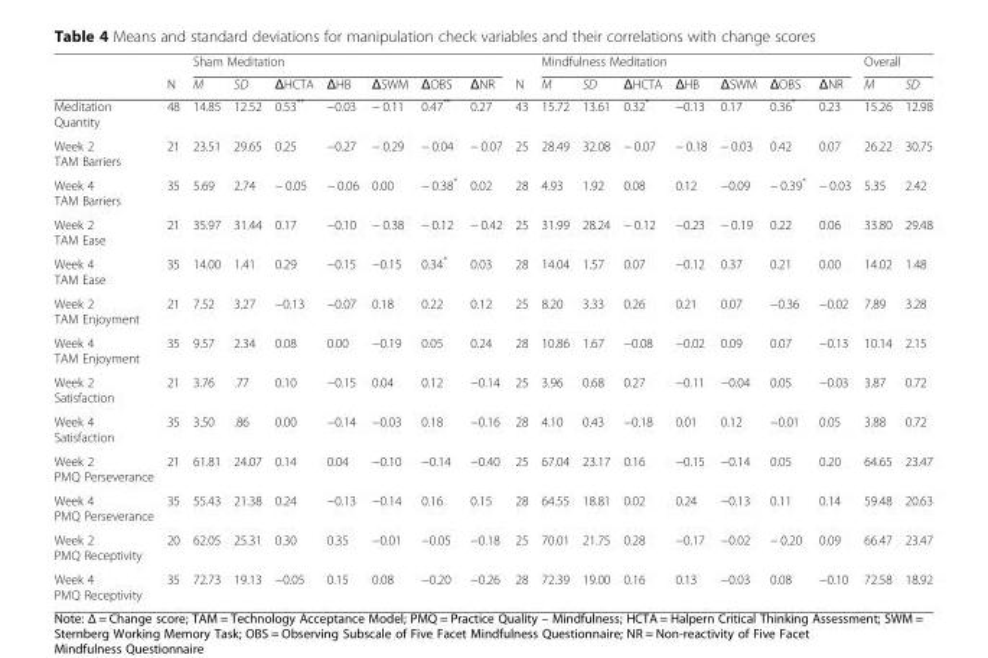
<table><thead><tr><td rowspan="2"></td><td rowspan="2">N</td><td colspan="7">Sham Meditation</td><td rowspan="2">N</td><td colspan="7">Mindfulness Meditation</td><td colspan="2">Overall</td></tr><tr><td>M</td><td>SD</td><td>ΔHCTA</td><td>ΔHB</td><td>ΔSWM</td><td>ΔOBS</td><td>ΔNR</td><td>M</td><td>SD</td><td>ΔHCTA</td><td>ΔHB</td><td>ΔSWM</td><td>ΔOBS</td><td>ΔNR</td><td>M</td><td>SD</td></tr></thead><tbody><tr><td>Meditation Quantity</td><td>48</td><td>14.85</td><td>12.52</td><td>0.53**</td><td>−0.03</td><td>− 0.11</td><td>0.47**</td><td>0.27</td><td>43</td><td>15.72</td><td>13.61</td><td>0.32*</td><td>−0.13</td><td>0.17</td><td>0.36*</td><td>0.23</td><td>15.26</td><td>12.98</td></tr><tr><td>Week 2 TAM Barriers</td><td>21</td><td>23.51</td><td>29.65</td><td>0.25</td><td>−0.27</td><td>− 0.29</td><td>− 0.04</td><td>− 0.07</td><td>25</td><td>28.49</td><td>32.08</td><td>− 0.07</td><td>− 0.18</td><td>− 0.03</td><td>0.42</td><td>0.07</td><td>26.22</td><td>30.75</td></tr><tr><td>Week 4 TAM Barriers</td><td>35</td><td>5.69</td><td>2.74</td><td>− 0.05</td><td>− 0.06</td><td>0.00</td><td>− 0.38*</td><td>0.02</td><td>28</td><td>4.93</td><td>1.92</td><td>0.08</td><td>0.12</td><td>−0.09</td><td>− 0.39*</td><td>− 0.03</td><td>5.35</td><td>2.42</td></tr><tr><td>Week 2 TAM Ease</td><td>21</td><td>35.97</td><td>31.44</td><td>0.17</td><td>−0.10</td><td>− 0.38</td><td>− 0.12</td><td>− 0.42</td><td>25</td><td>31.99</td><td>28.24</td><td>− 0.12</td><td>−0.23</td><td>− 0.19</td><td>0.22</td><td>0.06</td><td>33.80</td><td>29.48</td></tr><tr><td>Week 4 TAM Ease</td><td>35</td><td>14.00</td><td>1.41</td><td>0.29</td><td>−0.15</td><td>−0.15</td><td>0.34*</td><td>0.03</td><td>28</td><td>14.04</td><td>1.57</td><td>0.07</td><td>−0.12</td><td>0.37</td><td>0.21</td><td>0.00</td><td>14.02</td><td>1.48</td></tr><tr><td>Week 2 TAM Enjoyment</td><td>21</td><td>7.52</td><td>3.27</td><td>−0.13</td><td>−0.07</td><td>0.18</td><td>0.22</td><td>0.12</td><td>25</td><td>8.20</td><td>3.33</td><td>0.26</td><td>0.21</td><td>0.07</td><td>−0.36</td><td>−0.02</td><td>7.89</td><td>3.28</td></tr><tr><td>Week 4 TAM Enjoyment</td><td>35</td><td>9.57</td><td>2.34</td><td>0.08</td><td>0.00</td><td>−0.19</td><td>0.05</td><td>0.24</td><td>28</td><td>10.86</td><td>1.67</td><td>−0.08</td><td>−0.02</td><td>0.09</td><td>0.07</td><td>−0.13</td><td>10.14</td><td>2.15</td></tr><tr><td>Week 2 Satisfaction</td><td>21</td><td>3.76</td><td>.77</td><td>0.10</td><td>−0.15</td><td>0.04</td><td>0.12</td><td>−0.14</td><td>25</td><td>3.96</td><td>0.68</td><td>0.27</td><td>−0.11</td><td>−0.04</td><td>0.05</td><td>−0.03</td><td>3.87</td><td>0.72</td></tr><tr><td>Week 4 Satisfaction</td><td>35</td><td>3.50</td><td>.86</td><td>0.00</td><td>−0.14</td><td>−0.03</td><td>0.18</td><td>−0.16</td><td>28</td><td>4.10</td><td>0.43</td><td>−0.18</td><td>0.01</td><td>0.12</td><td>−0.01</td><td>0.05</td><td>3.88</td><td>0.72</td></tr><tr><td>Week 2 PMQ Perseverance</td><td>21</td><td>61.81</td><td>24.07</td><td>0.14</td><td>0.04</td><td>−0.10</td><td>−0.14</td><td>−0.40</td><td>25</td><td>67.04</td><td>23.17</td><td>0.16</td><td>−0.15</td><td>−0.14</td><td>0.05</td><td>0.20</td><td>64.65</td><td>23.47</td></tr><tr><td>Week 4 PMQ Perseverance</td><td>35</td><td>55.43</td><td>21.38</td><td>0.24</td><td>−0.13</td><td>−0.14</td><td>0.16</td><td>0.15</td><td>28</td><td>64.55</td><td>18.81</td><td>0.02</td><td>0.24</td><td>−0.13</td><td>0.11</td><td>0.14</td><td>59.48</td><td>20.63</td></tr><tr><td>Week 2 PMQ Receptivity</td><td>20</td><td>62.05</td><td>25.31</td><td>0.30</td><td>0.35</td><td>−0.01</td><td>−0.05</td><td>−0.18</td><td>25</td><td>70.01</td><td>21.75</td><td>0.28</td><td>−0.17</td><td>−0.02</td><td>− 0.20</td><td>0.09</td><td>66.47</td><td>23.47</td></tr><tr><td>Week 4 PMQ Receptivity</td><td>35</td><td>72.73</td><td>19.13</td><td>−0.05</td><td>0.15</td><td>0.08</td><td>−0.20</td><td>−0.26</td><td>28</td><td>72.39</td><td>19.00</td><td>0.16</td><td>0.13</td><td>−0.03</td><td>0.08</td><td>−0.10</td><td>72.58</td><td>18.92</td></tr></tbody></table>